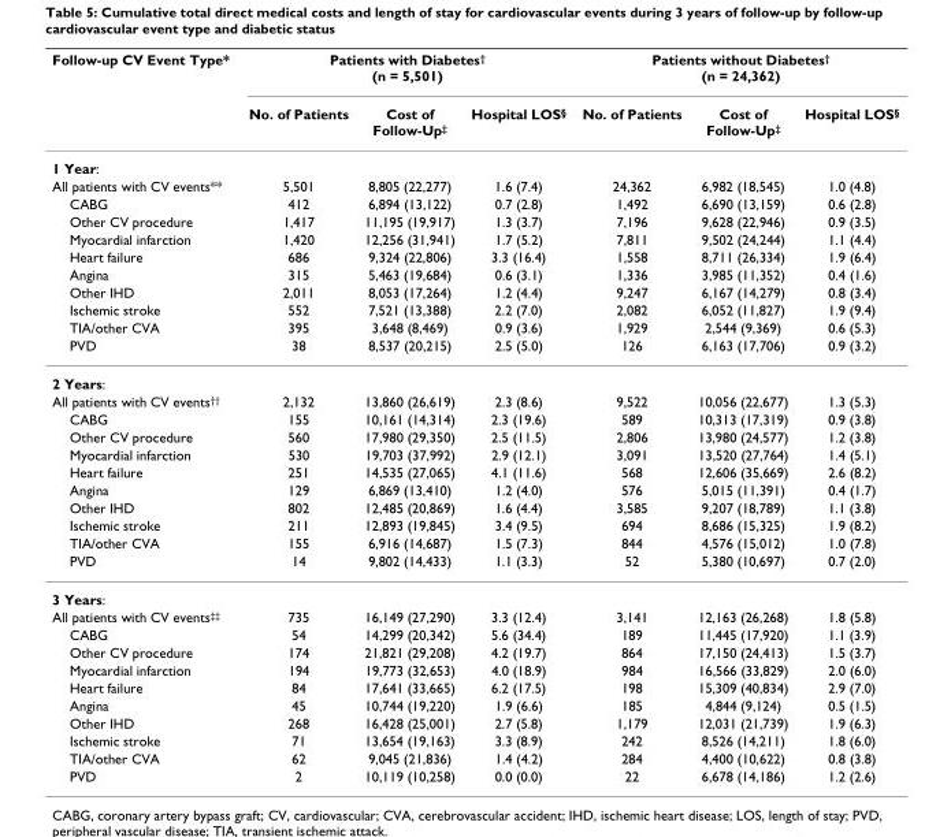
<table><thead><tr><td rowspan="2">Follow-up CV Event Type*</td><td colspan="3">Patients with Diabetes<sup>†</sup> (n = 5,501)</td><td colspan="3">Patients without Diabetes<sup>†</sup> (n = 24,362)</td></tr><tr><td>No. of Patients</td><td>Cost of Follow-Up<sup>‡</sup></td><td>Hospital LOS<sup>§</sup></td><td>No. of Patients</td><td>Cost of Follow-Up<sup>‡</sup></td><td>Hospital LOS<sup>§</sup></td></tr></thead><tbody><tr><td colspan="7">1 Year:</td></tr><tr><td>All patients with CV events**</td><td>5,501</td><td>8,805 (22,277)</td><td>1.6 (7.4)</td><td>24,362</td><td>6,982 (18,545)</td><td>1.0 (4.8)</td></tr><tr><td>CABG</td><td>412</td><td>6,894 (13,122)</td><td>0.7 (2.8)</td><td>1,492</td><td>6,690 (13,159)</td><td>0.6 (2.8)</td></tr><tr><td>Other CV procedure</td><td>1,417</td><td>11,195 (19,917)</td><td>1.3 (3.7)</td><td>7,196</td><td>9,628 (22,946)</td><td>0.9 (3.5)</td></tr><tr><td>Myocardial infarction</td><td>1,420</td><td>12,256 (31,941)</td><td>1.7 (5.2)</td><td>7,811</td><td>9,502 (24,244)</td><td>1.1 (4.4)</td></tr><tr><td>Heart failure</td><td>686</td><td>9,324 (22,806)</td><td>3.3 (16.4)</td><td>1,558</td><td>8,711 (26,334)</td><td>1.9 (6.4)</td></tr><tr><td>Angina</td><td>315</td><td>5,463 (19,684)</td><td>0.6 (3.1)</td><td>1,336</td><td>3,985 (11,352)</td><td>0.4 (1.6)</td></tr><tr><td>Other IHD</td><td>2,011</td><td>8,053 (17,264)</td><td>1.2 (4.4)</td><td>9,247</td><td>6,167 (14,279)</td><td>0.8 (3.4)</td></tr><tr><td>Ischemic stroke</td><td>552</td><td>7,521 (13,388)</td><td>2.2 (7.0)</td><td>2,082</td><td>6,052 (11,827)</td><td>1.9 (9.4)</td></tr><tr><td>TIA/other CVA</td><td>395</td><td>3,648 (8,469)</td><td>0.9 (3.6)</td><td>1,929</td><td>2,544 (9,369)</td><td>0.6 (5.3)</td></tr><tr><td>PVD</td><td>38</td><td>8,537 (20,215)</td><td>2.5 (5.0)</td><td>126</td><td>6,163 (17,706)</td><td>0.9 (3.2)</td></tr><tr><td colspan="7">2 Years:</td></tr><tr><td>All patients with CV events<sup>††</sup></td><td>2,132</td><td>13,860 (26,619)</td><td>2.3 (8.6)</td><td>9,522</td><td>10,056 (22,677)</td><td>1.3 (5.3)</td></tr><tr><td>CABG</td><td>155</td><td>10,161 (14,314)</td><td>2.3 (19.6)</td><td>589</td><td>10,313 (17,319)</td><td>0.9 (3.8)</td></tr><tr><td>Other CV procedure</td><td>560</td><td>17,980 (29,350)</td><td>2.5 (11.5)</td><td>2,806</td><td>13,980 (24,577)</td><td>1.2 (3.8)</td></tr><tr><td>Myocardial infarction</td><td>530</td><td>19,703 (37,992)</td><td>2.9 (12.1)</td><td>3,091</td><td>13,520 (27,764)</td><td>1.4 (5.1)</td></tr><tr><td>Heart failure</td><td>251</td><td>14,535 (27,065)</td><td>4.1 (11.6)</td><td>568</td><td>12,606 (35,669)</td><td>2.6 (8.2)</td></tr><tr><td>Angina</td><td>129</td><td>6,869 (13,410)</td><td>1.2 (4.0)</td><td>576</td><td>5,015 (11,391)</td><td>0.4 (1.7)</td></tr><tr><td>Other IHD</td><td>802</td><td>12,485 (20,869)</td><td>1.6 (4.4)</td><td>3,585</td><td>9,207 (18,789)</td><td>1.1 (3.8)</td></tr><tr><td>Ischemic stroke</td><td>211</td><td>12,893 (19,845)</td><td>3.4 (9.5)</td><td>694</td><td>8,686 (15,325)</td><td>1.9 (8.2)</td></tr><tr><td>TIA/other CVA</td><td>155</td><td>6,916 (14,687)</td><td>1.5 (7.3)</td><td>844</td><td>4,576 (15,012)</td><td>1.0 (7.8)</td></tr><tr><td>PVD</td><td>14</td><td>9,802 (14,433)</td><td>1.1 (3.3)</td><td>52</td><td>5,380 (10,697)</td><td>0.7 (2.0)</td></tr><tr><td colspan="7">3 Years:</td></tr><tr><td>All patients with CV events<sup>‡‡</sup></td><td>735</td><td>16,149 (27,290)</td><td>3.3 (12.4)</td><td>3,141</td><td>12,163 (26,268)</td><td>1.8 (5.8)</td></tr><tr><td>CABG</td><td>54</td><td>14,299 (20,342)</td><td>5.6 (34.4)</td><td>189</td><td>11,445 (17,920)</td><td>1.1 (3.9)</td></tr><tr><td>Other CV procedure</td><td>174</td><td>21,821 (29,208)</td><td>4.2 (19.7)</td><td>864</td><td>17,150 (24,413)</td><td>1.5 (3.7)</td></tr><tr><td>Myocardial infarction</td><td>194</td><td>19,773 (32,653)</td><td>4.0 (18.9)</td><td>984</td><td>16,566 (33,829)</td><td>2.0 (6.0)</td></tr><tr><td>Heart failure</td><td>84</td><td>17,641 (33,665)</td><td>6.2 (17.5)</td><td>198</td><td>15,309 (40,834)</td><td>2.9 (7.0)</td></tr><tr><td>Angina</td><td>45</td><td>10,744 (19,220)</td><td>1.9 (6.6)</td><td>185</td><td>4,844 (9,124)</td><td>0.5 (1.5)</td></tr><tr><td>Other IHD</td><td>268</td><td>16,428 (25,001)</td><td>2.7 (5.8)</td><td>1,179</td><td>12,031 (21,739)</td><td>1.9 (6.3)</td></tr><tr><td>Ischemic stroke</td><td>71</td><td>13,654 (19,163)</td><td>3.3 (8.9)</td><td>242</td><td>8,526 (14,211)</td><td>1.8 (6.0)</td></tr><tr><td>TIA/other CVA</td><td>62</td><td>9,045 (21,836)</td><td>1.4 (4.2)</td><td>284</td><td>4,400 (10,622)</td><td>0.8 (3.8)</td></tr><tr><td>PVD</td><td>2</td><td>10,119 (10,258)</td><td>0.0 (0.0)</td><td>22</td><td>6,678 (14,186)</td><td>1.2 (2.6)</td></tr></tbody></table>